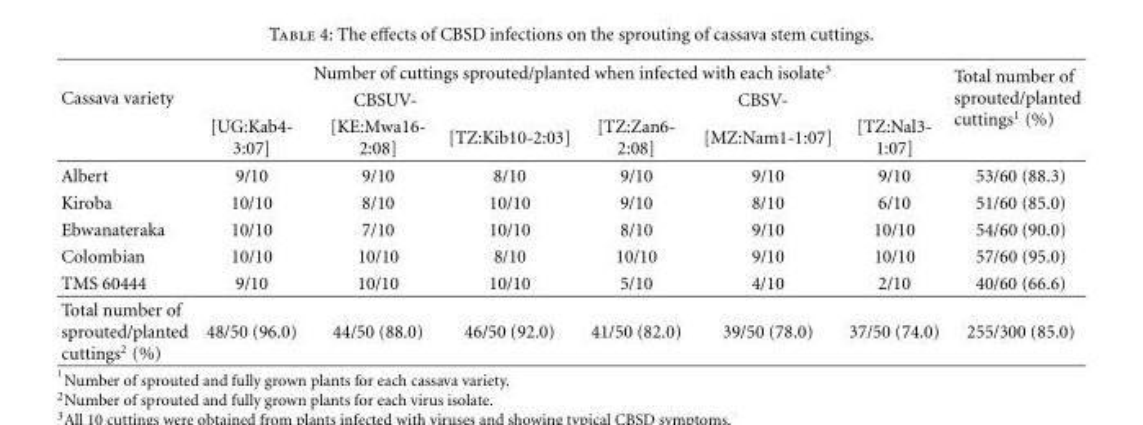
<table><thead><tr><td rowspan="3">Cassava variety</td><td colspan="6">Number of cuttings sprouted/planted when infected with each isolate<sup>3</sup></td><td rowspan="3">Total number of sprouted/planted cuttings<sup>1</sup> (%)</td></tr><tr><td colspan="3">CBSUV-</td><td colspan="3">CBSV-</td></tr><tr><td>[UG:Kab4- 3:07]</td><td>[KE:Mwa16- 2:08]</td><td>[TZ:Kib10-2:03]</td><td>[TZ:Zan6- 2:08]</td><td>[MZ:Nam1-1:07]</td><td>[TZ:Nal3- 1:07]</td></tr></thead><tbody><tr><td>Albert</td><td>9/10</td><td>9/10</td><td>8/10</td><td>9/10</td><td>9/10</td><td>9/10</td><td>53/60 (88.3)</td></tr><tr><td>Kiroba</td><td>10/10</td><td>8/10</td><td>10/10</td><td>9/10</td><td>8/10</td><td>6/10</td><td>51/60 (85.0)</td></tr><tr><td>Ebwanateraka</td><td>10/10</td><td>7/10</td><td>10/10</td><td>8/10</td><td>9/10</td><td>10/10</td><td>54/60 (90.0)</td></tr><tr><td>Colombian</td><td>10/10</td><td>10/10</td><td>8/10</td><td>10/10</td><td>9/10</td><td>10/10</td><td>57/60 (95.0)</td></tr><tr><td>TMS 60444</td><td>9/10</td><td>10/10</td><td>10/10</td><td>5/10</td><td>4/10</td><td>2/10</td><td>40/60 (66.6)</td></tr><tr><td>Total number of sprouted/planted cuttings<sup>2</sup> (%)</td><td>48/50 (96.0)</td><td>44/50 (88.0)</td><td>46/50 (92.0)</td><td>41/50 (82.0)</td><td>39/50 (78.0)</td><td>37/50 (74.0)</td><td>255/300 (85.0)</td></tr></tbody></table>